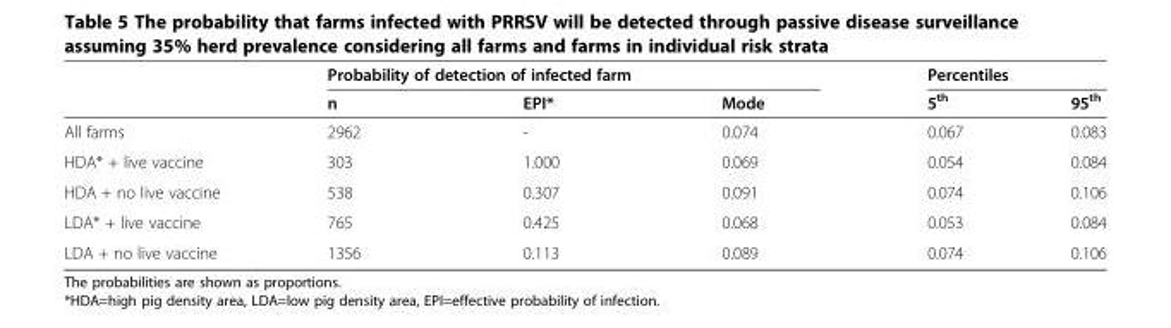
<table><thead><tr><td rowspan="2"></td><td colspan="3">Probability of detection of infected farm</td><td colspan="2">Percentiles</td></tr><tr><td>n</td><td>EPI*</td><td>Mode</td><td>5<sup>th</sup></td><td>95<sup>th</sup></td></tr></thead><tbody><tr><td>All farms</td><td>2962</td><td>-</td><td>0.074</td><td>0.067</td><td>0.083</td></tr><tr><td>HDA* + live vaccine</td><td>303</td><td>1.000</td><td>0.069</td><td>0.054</td><td>0.084</td></tr><tr><td>HDA + no live vaccine</td><td>538</td><td>0.307</td><td>0.091</td><td>0.074</td><td>0.106</td></tr><tr><td>LDA* + live vaccine</td><td>765</td><td>0.425</td><td>0.068</td><td>0.053</td><td>0.084</td></tr><tr><td>LDA + no live vaccine</td><td>1356</td><td>0.113</td><td>0.089</td><td>0.074</td><td>0.106</td></tr></tbody></table>